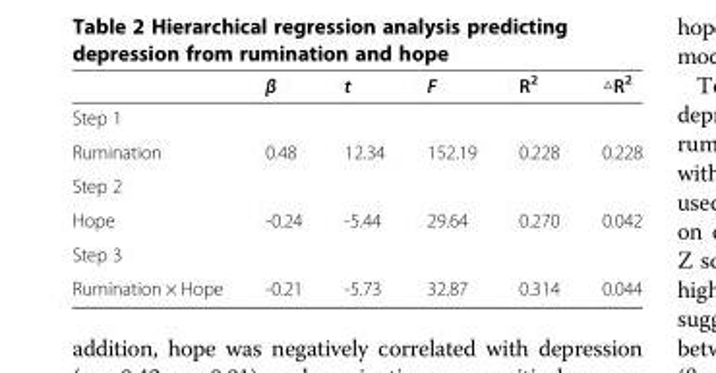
<table><thead><tr><td></td><td>β</td><td>t</td><td>F</td><td>R<sup>2</sup></td><td>△R<sup>2</sup></td></tr></thead><tbody><tr><td colspan="6">Step 1</td></tr><tr><td>Rumination</td><td>0.48</td><td>12.34</td><td>152.19</td><td>0.228</td><td>0.228</td></tr><tr><td colspan="6">Step 2</td></tr><tr><td>Hope</td><td>-0.24</td><td>-5.44</td><td>29.64</td><td>0.270</td><td>0.042</td></tr><tr><td colspan="6">Step 3</td></tr><tr><td>Rumination × Hope</td><td>-0.21</td><td>-5.73</td><td>32.87</td><td>0.314</td><td>0.044</td></tr></tbody></table>